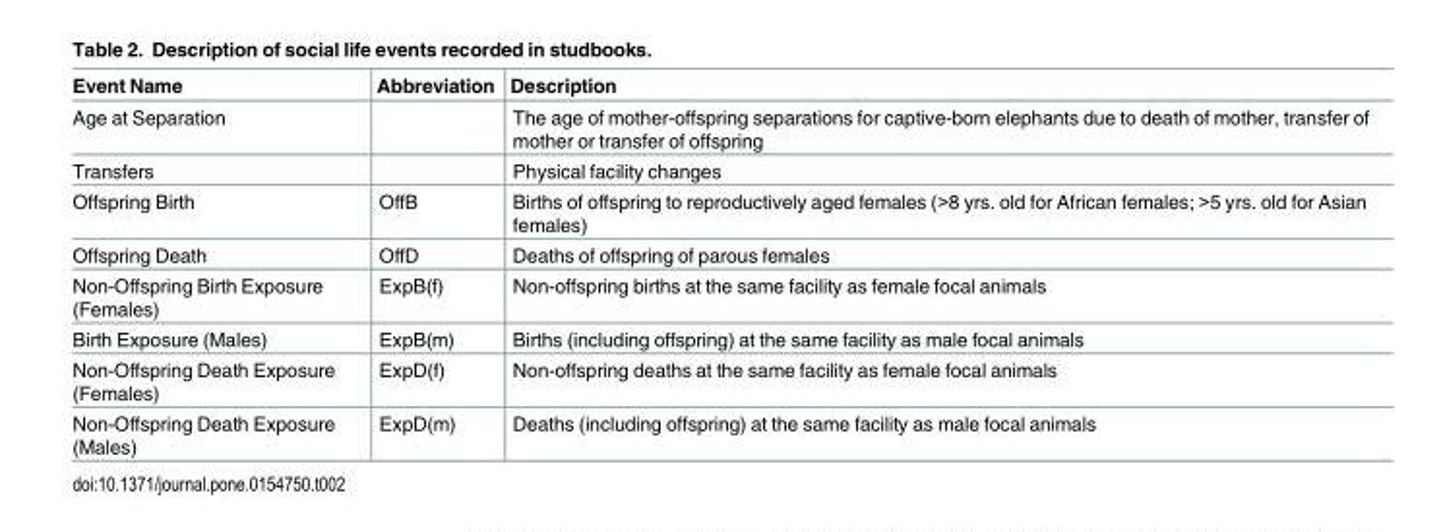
<table><thead><tr><td>Event Name</td><td>Abbreviation</td><td>Description</td></tr></thead><tbody><tr><td>Age at Separation</td><td></td><td>The age of mother-offspring separations for captive-born elephants due to death of mother, transfer of mother or transfer of offspring</td></tr><tr><td>Transfers</td><td></td><td>Physical facility changes</td></tr><tr><td>Offspring Birth</td><td>OffB</td><td>Births of offspring to reproductively aged females (&gt;8 yrs. old for African females; &gt;5 yrs. old for Asian females)</td></tr><tr><td>Offspring Death</td><td>OffD</td><td>Deaths of offspring of parous females</td></tr><tr><td>Non-Offspring Birth Exposure (Females)</td><td>ExpB(f)</td><td>Non-offspring births at the same facility as female focal animals</td></tr><tr><td>Birth Exposure (Males)</td><td>ExpB(m)</td><td>Births (including offspring) at the same facility as male focal animals</td></tr><tr><td>Non-Offspring Death Exposure (Females)</td><td>ExpD(f)</td><td>Non-offspring deaths at the same facility as female focal animals</td></tr><tr><td>Non-Offspring Death Exposure (Males)</td><td>ExpD(m)</td><td>Deaths (including offspring) at the same facility as male focal animals</td></tr></tbody></table>